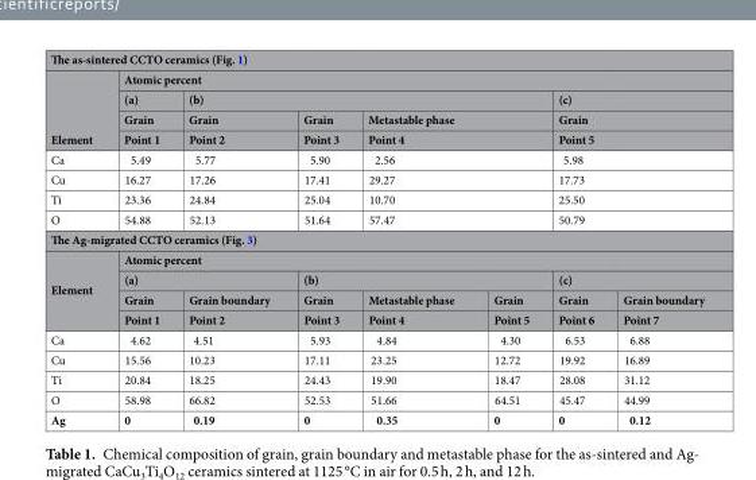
<table><thead><tr><td colspan="8">The as-sintered CCTO ceramics (Fig. 1)</td></tr><tr><td rowspan="4">Element</td><td colspan="7">Atomic percent</td></tr><tr><td rowspan="3">(a) Grain Point 1</td><td colspan="4">(b)</td><td rowspan="3" colspan="2">(c) Grain Point 5</td></tr><tr><td rowspan="2">Grain Point 2</td><td rowspan="2">Grain Point 3</td><td rowspan="2" colspan="2">Metastable phase Point 4</td></tr><tr></tr></thead><tbody><tr><td>Ca</td><td>5.49</td><td>5.77</td><td>5.90</td><td colspan="2">2.56</td><td colspan="2">5.98</td></tr><tr><td>Cu</td><td>16.27</td><td>17.26</td><td>17.41</td><td colspan="2">29.27</td><td colspan="2">17.73</td></tr><tr><td>Ti</td><td>23.36</td><td>24.84</td><td>25.04</td><td colspan="2">10.70</td><td colspan="2">25.50</td></tr><tr><td>O</td><td>54.88</td><td>52.13</td><td>51.64</td><td colspan="2">57.47</td><td colspan="2">50.79</td></tr><tr><td colspan="8">The Ag-migrated CCTO ceramics (Fig. 3)</td></tr><tr><td rowspan="4">Element</td><td colspan="7">Atomic percent</td></tr><tr><td colspan="2">(a)</td><td colspan="3">(b)</td><td colspan="2">(c)</td></tr><tr><td>Grain</td><td>Grain boundary</td><td>Grain</td><td>Metastable phase</td><td>Grain</td><td>Grain</td><td>Grain boundary</td></tr><tr><td>Point 1</td><td>Point 2</td><td>Point 3</td><td>Point 4</td><td>Point 5</td><td>Point 6</td><td>Point 7</td></tr><tr><td>Ca</td><td>4.62</td><td>4.51</td><td>5.93</td><td>4.84</td><td>4.30</td><td>6.53</td><td>6.88</td></tr><tr><td>Cu</td><td>15.56</td><td>10.23</td><td>17.11</td><td>23.25</td><td>12.72</td><td>19.92</td><td>16.89</td></tr><tr><td>Ti</td><td>20.84</td><td>18.25</td><td>24.43</td><td>19.90</td><td>18.47</td><td>28.08</td><td>31.12</td></tr><tr><td>O</td><td>58.98</td><td>66.82</td><td>52.53</td><td>51.66</td><td>64.51</td><td>45.47</td><td>44.99</td></tr><tr><td>Ag</td><td>0</td><td>0.19</td><td>0</td><td>0.35</td><td>0</td><td>0</td><td>0.12</td></tr></tbody></table>